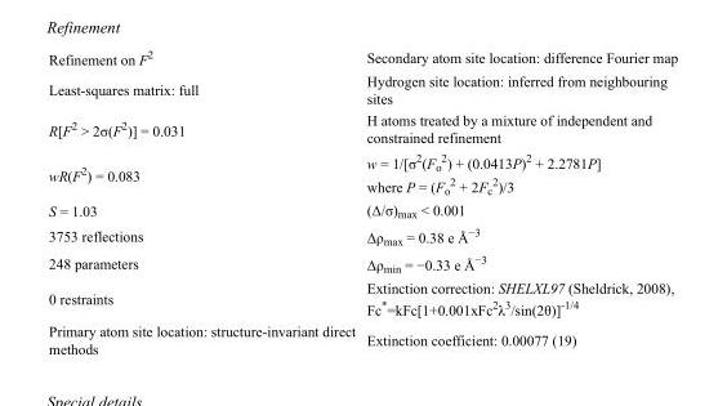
<table><tbody><tr><td>Refinement on F<sup>2</sup></td><td>Secondary atom site location: difference Fourier map</td></tr><tr><td>Least-squares matrix: full</td><td>Hydrogen site location: inferred from neighbouring sites</td></tr><tr><td>R[F<sup>2</sup> &gt; 2σ(F<sup>2</sup>)] = 0.031</td><td>H atoms treated by a mixture of independent and constrained refinement</td></tr><tr><td>wR(F<sup>2</sup>) = 0.083</td><td>w = 1/[σ<sup>2</sup>(F<sub>o</sub> <sup>2</sup>) + (0.0413P)<sup>2</sup> + 2.2781P] where P = (F<sub>o</sub> <sup>2</sup> + 2F<sub>c</sub> <sup>2</sup>)/3</td></tr><tr><td>S = 1.03</td><td>(Δ/σ)<sub>max</sub> &lt; 0.001</td></tr><tr><td>3753 reflections</td><td>Δρ<sub>max</sub> = 0.38 e Å<sup>−3</sup></td></tr><tr><td>248 parameters</td><td>Δρ<sub>min</sub> = −0.33 e Å<sup>−3</sup></td></tr><tr><td>0 restraints</td><td>Extinction correction: SHELXL97 (Sheldrick, 2008), Fc*=kFc[1+0.001xFc<sup>2</sup>λ<sup>3</sup>/sin(2θ)]<sup>-1/4</sup></td></tr><tr><td>Primary atom site location: structure-invariant direct methods</td><td>Extinction coefficient: 0.00077 (19)</td></tr></tbody></table>